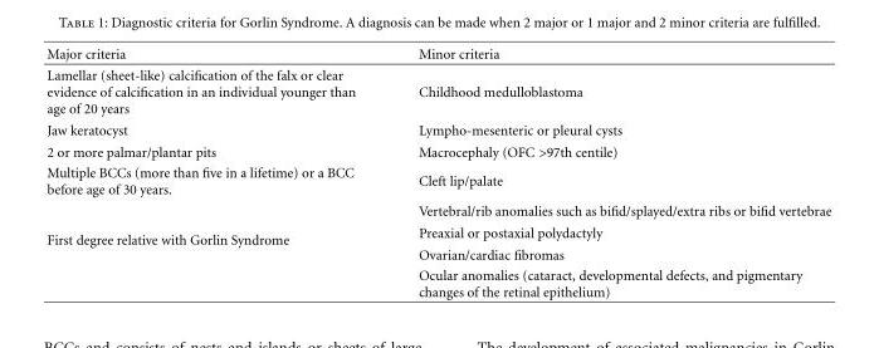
<table><thead><tr><td>Major criteria</td><td>Minor criteria</td></tr></thead><tbody><tr><td>Lamellar (sheet-like) calcification of the falx or clear evidence of calcification in an individual younger than age of 20 years</td><td>Childhood medulloblastoma</td></tr><tr><td>Jaw keratocyst</td><td>Lympho-mesenteric or pleural cysts</td></tr><tr><td>2 or more palmar/plantar pits</td><td>Macrocephaly (OFC &gt;97th centile)</td></tr><tr><td>Multiple BCCs (more than five in a lifetime) or a BCC before age of 30 years.</td><td>Cleft lip/palate</td></tr><tr><td rowspan="4">First degree relative with Gorlin Syndrome</td><td>Vertebral/rib anomalies such as bifid/splayed/extra ribs or bifid vertebrae</td></tr><tr><td>Preaxial or postaxial polydactyly</td></tr><tr><td>Ovarian/cardiac fibromas</td></tr><tr><td>Ocular anomalies (cataract, developmental defects, and pigmentary changes of the retinal epithelium)</td></tr></tbody></table>